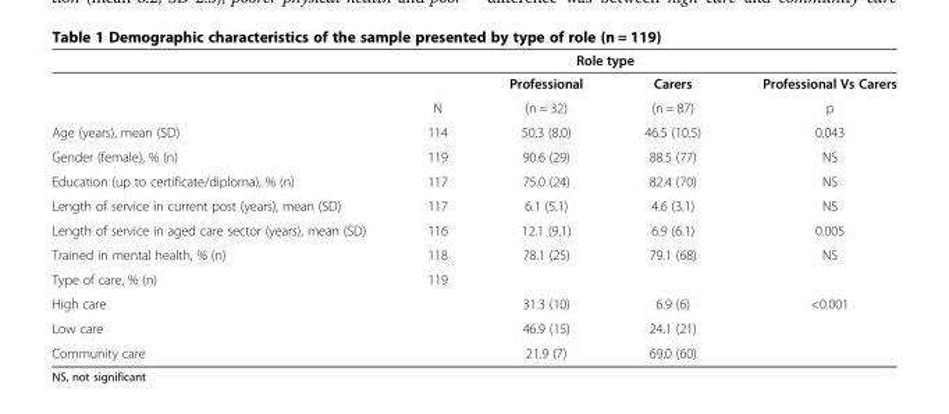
<table><thead><tr><td rowspan="2"></td><td rowspan="2"></td><td colspan="2">Role type</td><td rowspan="2">Professional Vs Carers</td></tr><tr><td>Professional</td><td>Carers</td></tr></thead><tbody><tr><td></td><td>N</td><td>(n = 32)</td><td>(n = 87)</td><td>p</td></tr><tr><td>Age (years), mean (SD)</td><td>114</td><td>50.3 (8.0)</td><td>46.5 (10.5)</td><td>0.043</td></tr><tr><td>Gender (female), % (n)</td><td>119</td><td>90.6 (29)</td><td>88.5 (77)</td><td>NS</td></tr><tr><td>Education (up to certificate/diploma), % (n)</td><td>117</td><td>75.0 (24)</td><td>82.4 (70)</td><td>NS</td></tr><tr><td>Length of service in current post (years), mean (SD)</td><td>117</td><td>6.1 (5.1)</td><td>4.6 (3.1)</td><td>NS</td></tr><tr><td>Length of service in aged care sector (years), mean (SD)</td><td>116</td><td>12.1 (9.1)</td><td>6.9 (6.1)</td><td>0.005</td></tr><tr><td>Trained in mental health, % (n)</td><td>118</td><td>78.1 (25)</td><td>79.1 (68)</td><td>NS</td></tr><tr><td>Type of care, % (n)</td><td>119</td><td></td><td></td><td></td></tr><tr><td>High care</td><td></td><td>31.3 (10)</td><td>6.9 (6)</td><td>&lt;0.001</td></tr><tr><td>Low care</td><td></td><td>46.9 (15)</td><td>24.1 (21)</td><td></td></tr><tr><td>Community care</td><td></td><td>21.9 (7)</td><td>69.0 (60)</td><td></td></tr></tbody></table>